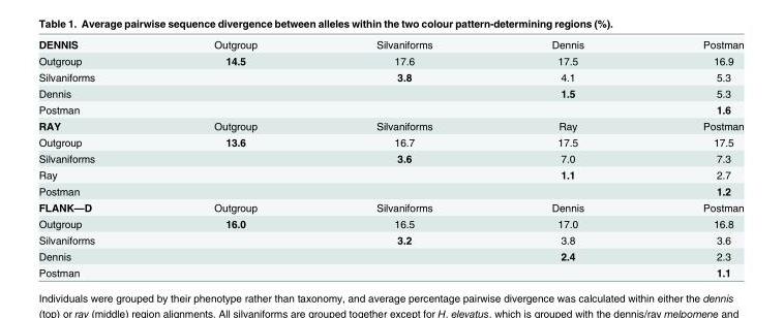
<table><tbody><tr><td>DENNIS</td><td>Outgroup</td><td>Silvaniforms</td><td>Dennis</td><td>Postman</td></tr><tr><td>Outgroup</td><td>14.5</td><td>17.6</td><td>17.5</td><td>16.9</td></tr><tr><td>Silvaniforms</td><td></td><td>3.8</td><td>4.1</td><td>5.3</td></tr><tr><td>Dennis</td><td></td><td></td><td>1.5</td><td>5.3</td></tr><tr><td>Postman</td><td></td><td></td><td></td><td>1.6</td></tr><tr><td>RAY</td><td>Outgroup</td><td>Silvaniforms</td><td>Ray</td><td>Postman</td></tr><tr><td>Outgroup</td><td>13.6</td><td>16.7</td><td>17.5</td><td>17.5</td></tr><tr><td>Silvaniforms</td><td></td><td>3.6</td><td>7.0</td><td>7.3</td></tr><tr><td>Ray</td><td></td><td></td><td>1.1</td><td>2.7</td></tr><tr><td>Postman</td><td></td><td></td><td></td><td>1.2</td></tr><tr><td>FLANK—D</td><td>Outgroup</td><td>Silvaniforms</td><td>Dennis</td><td>Postman</td></tr><tr><td>Outgroup</td><td>16.0</td><td>16.5</td><td>17.0</td><td>16.8</td></tr><tr><td>Silvaniforms</td><td></td><td>3.2</td><td>3.8</td><td>3.6</td></tr><tr><td>Dennis</td><td></td><td></td><td>2.4</td><td>2.3</td></tr><tr><td>Postman</td><td></td><td></td><td></td><td>1.1</td></tr></tbody></table>